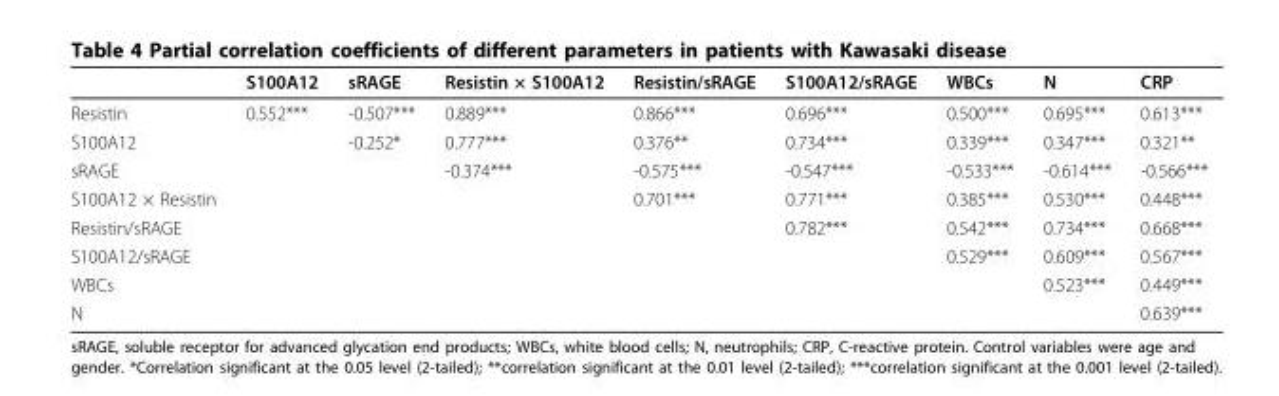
<table><thead><tr><td></td><td>S100A12</td><td>sRAGE</td><td>Resistin × S100A12</td><td>Resistin/sRAGE</td><td>S100A12/sRAGE</td><td>WBCs</td><td>N</td><td>CRP</td></tr></thead><tbody><tr><td>Resistin</td><td>0.552***</td><td>-0.507***</td><td>0.889***</td><td>0.866***</td><td>0.696***</td><td>0.500***</td><td>0.695***</td><td>0.613***</td></tr><tr><td>S100A12</td><td></td><td>-0.252*</td><td>0.777***</td><td>0.376**</td><td>0.734***</td><td>0.339***</td><td>0.347***</td><td>0.321**</td></tr><tr><td>sRAGE</td><td></td><td></td><td>-0.374***</td><td>-0.575***</td><td>-0.547***</td><td>-0.533***</td><td>-0.614***</td><td>-0.566***</td></tr><tr><td>S100A12 × Resistin</td><td></td><td></td><td></td><td>0.701***</td><td>0.771***</td><td>0.385***</td><td>0.530***</td><td>0.448***</td></tr><tr><td>Resistin/sRAGE</td><td></td><td></td><td></td><td></td><td>0.782***</td><td>0.542***</td><td>0.734***</td><td>0.668***</td></tr><tr><td>S100A12/sRAGE</td><td></td><td></td><td></td><td></td><td></td><td>0.529***</td><td>0.609***</td><td>0.567***</td></tr><tr><td>WBCs</td><td></td><td></td><td></td><td></td><td></td><td></td><td>0.523***</td><td>0.449***</td></tr><tr><td>N</td><td></td><td></td><td></td><td></td><td></td><td></td><td></td><td>0.639***</td></tr></tbody></table>